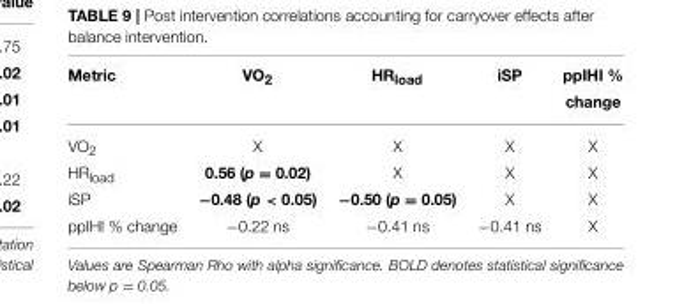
<table><thead><tr><td>Metric</td><td>VO<sub>2</sub></td><td>HR<sub>load</sub></td><td>iSP</td><td>ppIHI % change</td></tr></thead><tbody><tr><td>VO<sub>2</sub></td><td>X</td><td>X</td><td>X</td><td>X</td></tr><tr><td>HR<sub>load</sub></td><td>0.56 (p = 0.02)</td><td>X</td><td>X</td><td>X</td></tr><tr><td>iSP</td><td>−0.48 (p &lt; 0.05)</td><td>−0.50 (p = 0.05)</td><td>X</td><td>X</td></tr><tr><td>ppIHI % change</td><td>−0.22 ns</td><td>−0.41 ns</td><td>−0.41 ns</td><td>X</td></tr></tbody></table>